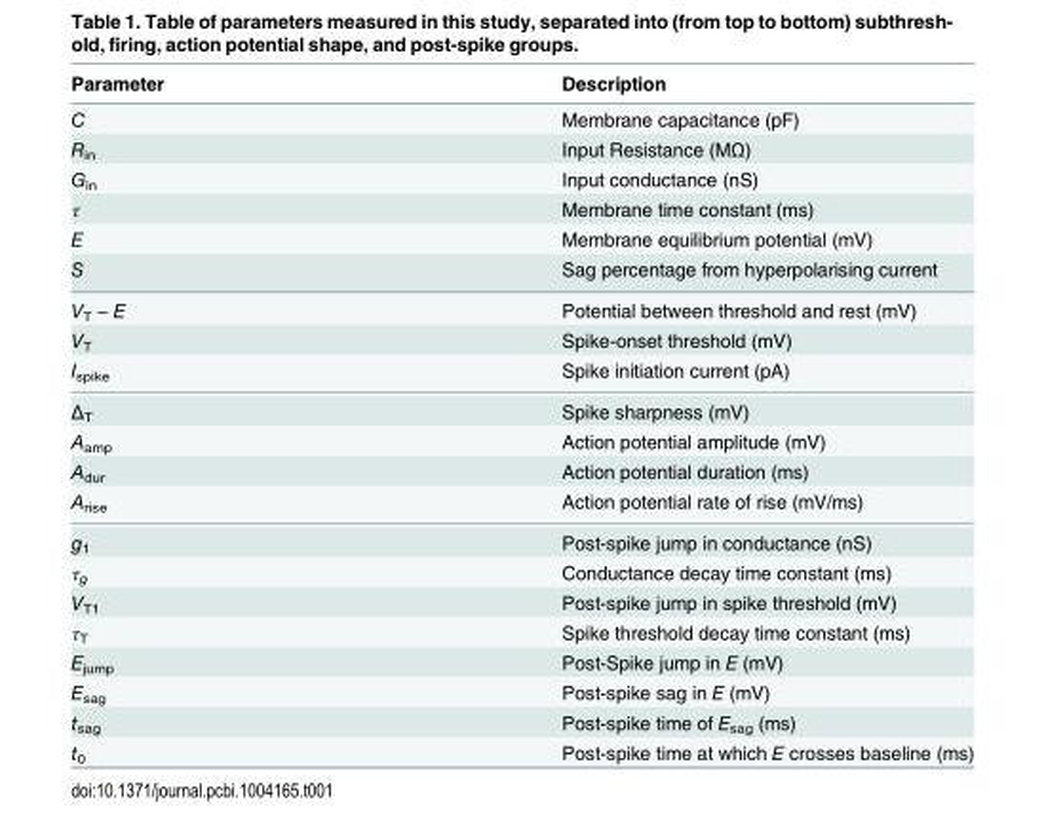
<table><thead><tr><td>Parameter</td><td>Description</td></tr></thead><tbody><tr><td>C</td><td>Membrane capacitance (pF)</td></tr><tr><td>R<sub>in</sub></td><td>Input Resistance (MΩ)</td></tr><tr><td>G<sub>in</sub></td><td>Input conductance (nS)</td></tr><tr><td>τ</td><td>Membrane time constant (ms)</td></tr><tr><td>E</td><td>Membrane equilibrium potential (mV)</td></tr><tr><td>S</td><td>Sag percentage from hyperpolarising current</td></tr><tr><td>V<sub>T</sub> − E</td><td>Potential between threshold and rest (mV)</td></tr><tr><td>V<sub>T</sub></td><td>Spike-onset threshold (mV)</td></tr><tr><td>I<sub>spike</sub></td><td>Spike initiation current (pA)</td></tr><tr><td>Δ<sub>T</sub></td><td>Spike sharpness (mV)</td></tr><tr><td>A<sub>amp</sub></td><td>Action potential amplitude (mV)</td></tr><tr><td>A<sub>dur</sub></td><td>Action potential duration (ms)</td></tr><tr><td>A<sub>rise</sub></td><td>Action potential rate of rise (mV/ms)</td></tr><tr><td>g<sub>1</sub></td><td>Post-spike jump in conductance (nS)</td></tr><tr><td>τ<sub>g</sub></td><td>Conductance decay time constant (ms)</td></tr><tr><td>V<sub>T1</sub></td><td>Post-spike jump in spike threshold (mV)</td></tr><tr><td>τ<sub>T</sub></td><td>Spike threshold decay time constant (ms)</td></tr><tr><td>E<sub>jump</sub></td><td>Post-Spike jump in E (mV)</td></tr><tr><td>E<sub>sag</sub></td><td>Post-spike sag in E (mV)</td></tr><tr><td>t<sub>sag</sub></td><td>Post-spike time of E<sub>sag</sub> (ms)</td></tr><tr><td>t<sub>0</sub></td><td>Post-spike time at which E crosses baseline (ms)</td></tr></tbody></table>